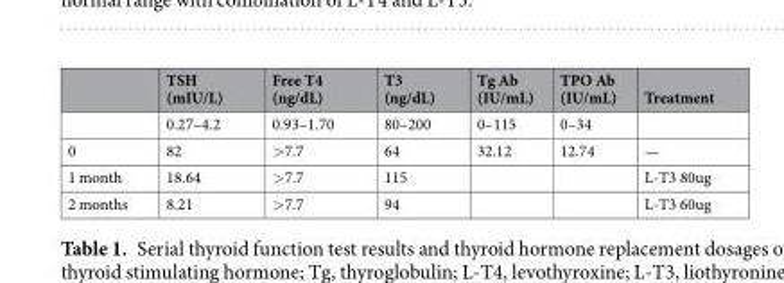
<table><thead><tr><td></td><td>TSH (mIU/L)</td><td>Free T4 (ng/dL)</td><td>T3 (ng/dL)</td><td>Tg Ab (IU/mL)</td><td>TPO Ab (IU/mL)</td><td>Treatment</td></tr></thead><tbody><tr><td></td><td>0.27–4.2</td><td>0.93–1.70</td><td>80–200</td><td>0–115</td><td>0–34</td><td></td></tr><tr><td>0</td><td>82</td><td>&gt;7.7</td><td>64</td><td>32.12</td><td>12.74</td><td>—</td></tr><tr><td>1 month</td><td>18.64</td><td>&gt;7.7</td><td>115</td><td></td><td></td><td>L-T3 80ug</td></tr><tr><td>2 months</td><td>8.21</td><td>&gt;7.7</td><td>94</td><td></td><td></td><td>L-T3 60ug</td></tr></tbody></table>